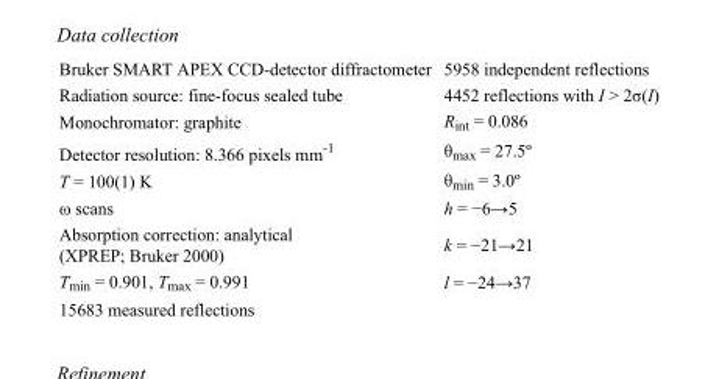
<table><tbody><tr><td>Bruker SMART APEX CCD-detector diffractometer</td><td>5958 independent reflections</td></tr><tr><td>Radiation source: fine-focus sealed tube</td><td>4452 reflections with I &gt; 2σ(I)</td></tr><tr><td>Monochromator: graphite</td><td>R<sub>int</sub> = 0.086</td></tr><tr><td>Detector resolution: 8.366 pixels mm<sup>-1</sup></td><td>θ<sub>max</sub> = 27.5º</td></tr><tr><td>T = 100(1) K</td><td>θ<sub>min</sub> = 3.0º</td></tr><tr><td>ω scans</td><td>h = −6→5</td></tr><tr><td>Absorption correction: analytical (XPREP; Bruker 2000)</td><td>k = −21→21</td></tr><tr><td>T<sub>min</sub> = 0.901, T<sub>max</sub> = 0.991</td><td>l = −24→37</td></tr><tr><td>15683 measured reflections</td><td></td></tr></tbody></table>